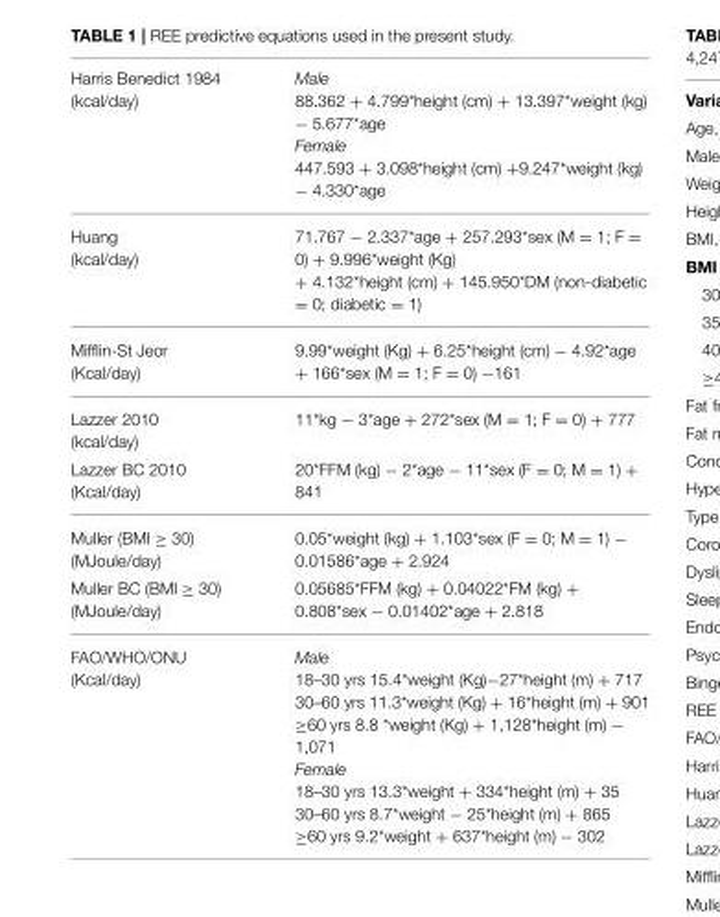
<table><tbody><tr><td>Harris Benedict 1984 (kcal/day)</td><td>Male 88.362 + 4.799*height (cm) + 13.397*weight (kg) − 5.677*age Female 447.593 + 3.098*height (cm) +9.247*weight (kg) − 4.330*age</td></tr><tr><td>Huang (kcal/day)</td><td>71.767 − 2.337*age + 257.293*sex (M = 1; F = 0) + 9.996*weight (Kg) + 4.132*height (cm) + 145.950*DM (non-diabetic = 0; diabetic = 1)</td></tr><tr><td>Mifflin-St Jeor (Kcal/day)</td><td>9.99*weight (Kg) + 6.25*height (cm) − 4.92*age + 166*sex (M = 1; F = 0) −161</td></tr><tr><td>Lazzer 2010 (kcal/day)</td><td>11*kg − 3*age + 272*sex (M = 1; F = 0) + 777</td></tr><tr><td>Lazzer BC 2010 (Kcal/day)</td><td>20*FFM (kg) − 2*age − 11*sex (F = 0; M = 1) + 841</td></tr><tr><td>Muller (BMI ≥ 30) (MJoule/day)</td><td>0.05*weight (kg) + 1.103*sex (F = 0; M = 1) − 0.01586*age + 2.924</td></tr><tr><td>Muller BC (BMI ≥ 30) (MJoule/day)</td><td>0.05685*FFM (kg) + 0.04022*FM (kg) + 0.808*sex − 0.01402*age + 2.818</td></tr><tr><td>FAO/WHO/ONU (Kcal/day)</td><td>Male 18–30 yrs 15.4*weight (Kg)−27*height (m) + 717 30–60 yrs 11.3*weight (Kg) + 16*height (m) + 901 ≥60 yrs 8.8 *weight (Kg) + 1,128*height (m) − 1,071 Female 18–30 yrs 13.3*weight + 334*height (m) + 35 30–60 yrs 8.7*weight − 25*height (m) + 865 ≥60 yrs 9.2*weight + 637*height (m) − 302</td></tr></tbody></table>